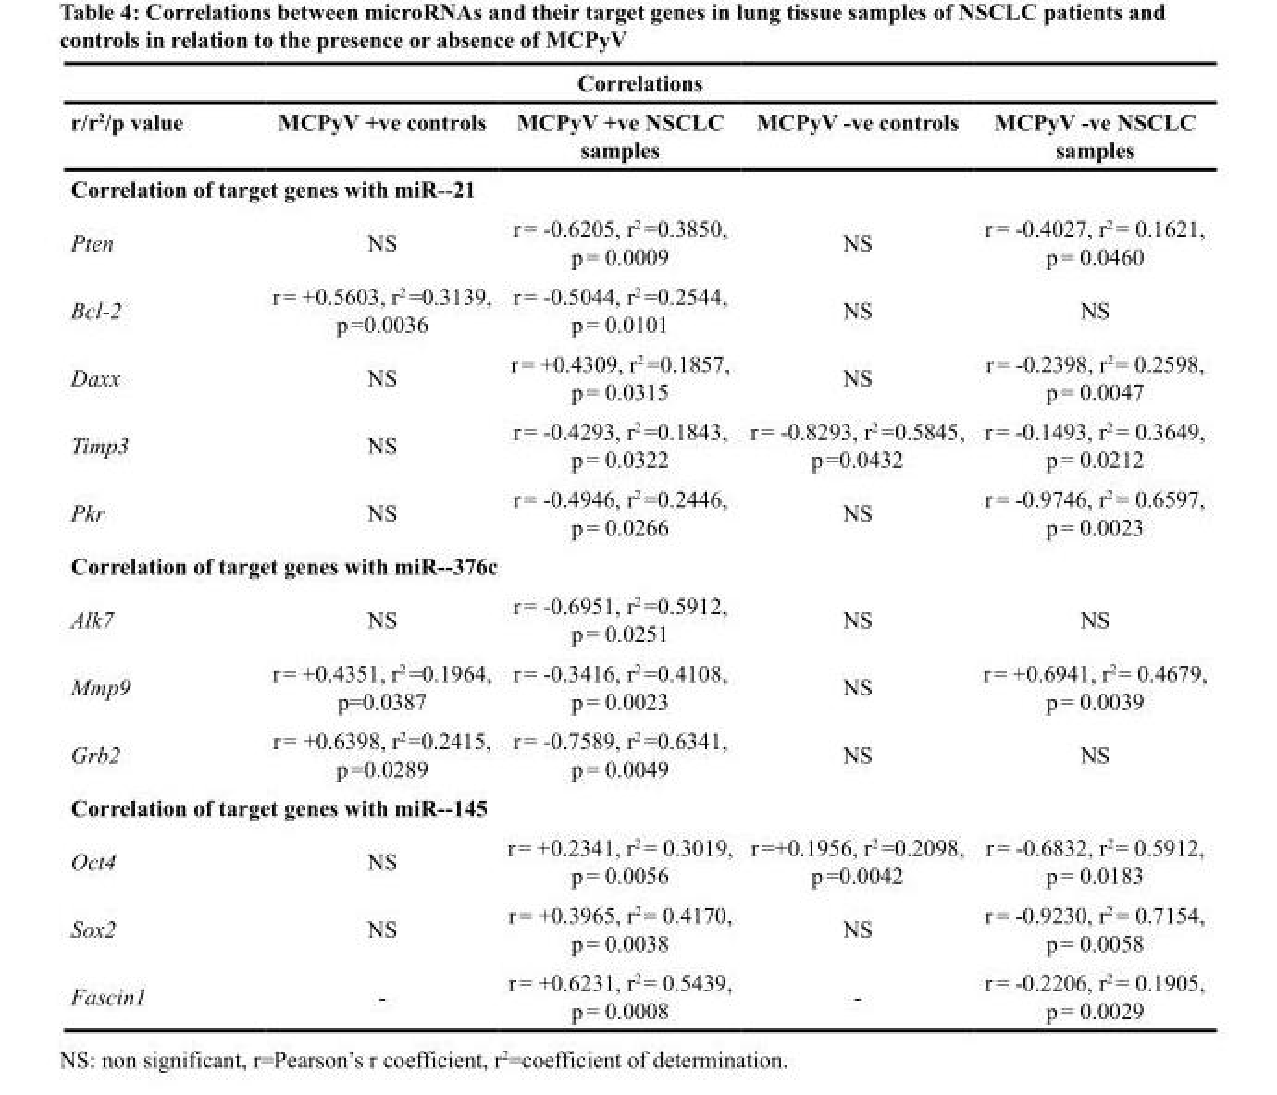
<table><thead><tr><td colspan="5">Correlations</td></tr><tr><td>r/r<sup>2</sup>/p value</td><td>MCPyV +ve controls</td><td>MCPyV +ve NSCLC samples</td><td>MCPyV -ve controls</td><td>MCPyV -ve NSCLC samples</td></tr></thead><tbody><tr><td colspan="5">Correlation of target genes with miR--21</td></tr><tr><td>Pten</td><td>NS</td><td>r = -0.6205, r<sup>2</sup> =0.3850, p = 0.0009</td><td>NS</td><td>r = -0.4027, r<sup>2</sup> = 0.1621, p = 0.0460</td></tr><tr><td>Bcl-2</td><td>r = +0.5603, r<sup>2</sup> =0.3139, p =0.0036</td><td>r = -0.5044, r<sup>2</sup> =0.2544, p = 0.0101</td><td>NS</td><td>NS</td></tr><tr><td>Daxx</td><td>NS</td><td>r = +0.4309, r<sup>2</sup> =0.1857, p = 0.0315</td><td>NS</td><td>r = -0.2398, r<sup>2</sup> = 0.2598, p = 0.0047</td></tr><tr><td>Timp3</td><td>NS</td><td>r = -0.4293, r<sup>2</sup> =0.1843, p = 0.0322</td><td>r = -0.8293, r<sup>2</sup> =0.5845, p =0.0432</td><td>r = -0.1493, r<sup>2</sup> = 0.3649, p = 0.0212</td></tr><tr><td>Pkr</td><td>NS</td><td>r = -0.4946, r<sup>2</sup> =0.2446, p = 0.0266</td><td>NS</td><td>r = -0.9746, r<sup>2</sup> = 0.6597, p = 0.0023</td></tr><tr><td colspan="5">Correlation of target genes with miR--376c</td></tr><tr><td>Alk7</td><td>NS</td><td>r = -0.6951, r<sup>2</sup> =0.5912, p = 0.0251</td><td>NS</td><td>NS</td></tr><tr><td>Mmp9</td><td>r = +0.4351, r<sup>2</sup> =0.1964, p=0.0387</td><td>r = -0.3416, r<sup>2</sup> =0.4108, p = 0.0023</td><td>NS</td><td>r = +0.6941, r<sup>2</sup> = 0.4679, p = 0.0039</td></tr><tr><td>Grb2</td><td>r = +0.6398, r<sup>2</sup> =0.2415, p =0.0289</td><td>r = -0.7589, r<sup>2</sup> =0.6341, p = 0.0049</td><td>NS</td><td>NS</td></tr><tr><td colspan="5">Correlation of target genes with miR--145</td></tr><tr><td>Oct4</td><td>NS</td><td>r = +0.2341, r<sup>2</sup> = 0.3019, p = 0.0056</td><td>r =+0.1956, r<sup>2</sup> =0.2098, p =0.0042</td><td>r = -0.6832, r<sup>2</sup> = 0.5912, p = 0.0183</td></tr><tr><td>Sox2</td><td>NS</td><td>r = +0.3965, r<sup>2</sup> = 0.4170, p = 0.0038</td><td>NS</td><td>r = -0.9230, r<sup>2</sup> = 0.7154, p = 0.0058</td></tr><tr><td>Fascin1</td><td>-</td><td>r = +0.6231, r<sup>2</sup> = 0.5439, p = 0.0008</td><td>-</td><td>r = -0.2206, r<sup>2</sup> = 0.1905, p = 0.0029</td></tr></tbody></table>